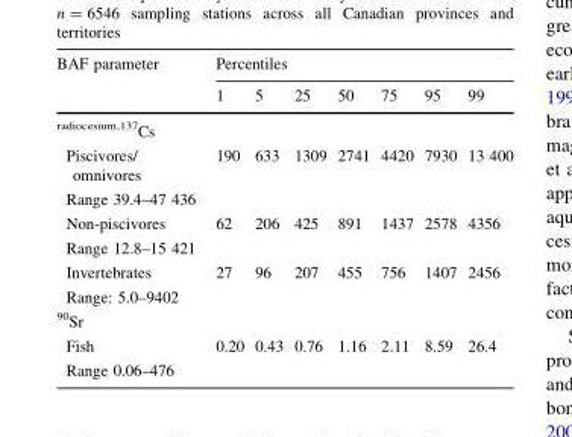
<table><thead><tr><td rowspan="2">BAF parameter</td><td colspan="7">Percentiles</td></tr><tr><td>1</td><td>5</td><td>25</td><td>50</td><td>75</td><td>95</td><td>99</td></tr></thead><tbody><tr><td colspan="8"><sup>radiocesium,137</sup>Cs</td></tr><tr><td>Piscivores/ omnivores</td><td>190</td><td>633</td><td>1309</td><td>2741</td><td>4420</td><td>7930</td><td>13 400</td></tr><tr><td colspan="8">Range 39.4–47 436</td></tr><tr><td>Non-piscivores</td><td>62</td><td>206</td><td>425</td><td>891</td><td>1437</td><td>2578</td><td>4356</td></tr><tr><td colspan="8">Range 12.8–15 421</td></tr><tr><td>Invertebrates</td><td>27</td><td>96</td><td>207</td><td>455</td><td>756</td><td>1407</td><td>2456</td></tr><tr><td colspan="8">Range: 5.0–9402</td></tr><tr><td colspan="8"><sup>90</sup>Sr</td></tr><tr><td>Fish</td><td>0.20</td><td>0.43</td><td>0.76</td><td>1.16</td><td>2.11</td><td>8.59</td><td>26.4</td></tr><tr><td>Range 0.06–476</td><td></td><td></td><td></td><td></td><td></td><td></td><td></td></tr></tbody></table>